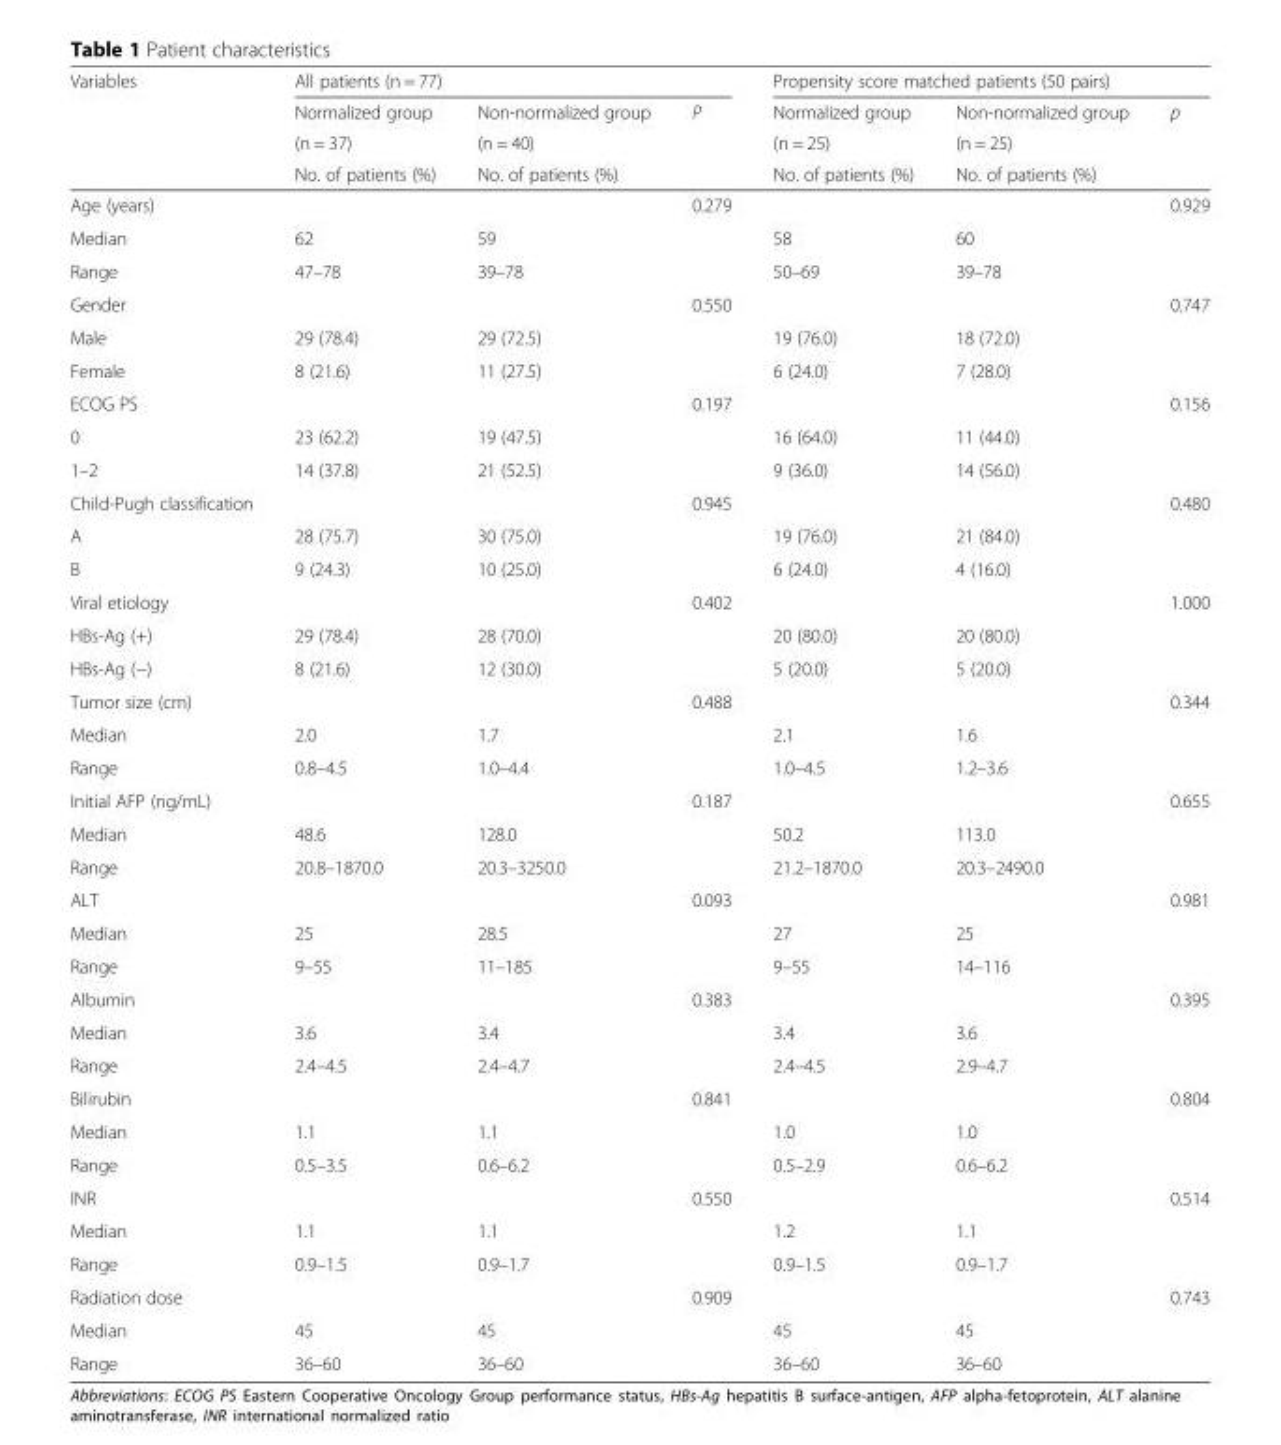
<table><thead><tr><td rowspan="4">Variables</td><td colspan="3">All patients (n = 77)</td><td colspan="3">Propensity score matched patients (50 pairs)</td></tr><tr><td rowspan="3">Normalized group (n = 37) No. of patients (%)</td><td rowspan="3">Non-normalized group (n = 40) No. of patients (%)</td><td rowspan="3">P</td><td rowspan="3">Normalized group (n = 25) No. of patients (%)</td><td rowspan="3">Non-normalized group (n = 25) No. of patients (%)</td><td rowspan="3">p</td></tr><tr></tr><tr></tr></thead><tbody><tr><td>Age (years)</td><td></td><td></td><td>0.279</td><td></td><td></td><td>0.929</td></tr><tr><td>Median</td><td>62</td><td>59</td><td></td><td>58</td><td>60</td><td></td></tr><tr><td>Range</td><td>47–78</td><td>39–78</td><td></td><td>50–69</td><td>39–78</td><td></td></tr><tr><td>Gender</td><td></td><td></td><td>0.550</td><td></td><td></td><td>0.747</td></tr><tr><td>Male</td><td>29 (78.4)</td><td>29 (72.5)</td><td></td><td>19 (76.0)</td><td>18 (72.0)</td><td></td></tr><tr><td>Female</td><td>8 (21.6)</td><td>11 (27.5)</td><td></td><td>6 (24.0)</td><td>7 (28.0)</td><td></td></tr><tr><td>ECOG PS</td><td></td><td></td><td>0.197</td><td></td><td></td><td>0.156</td></tr><tr><td>0</td><td>23 (62.2)</td><td>19 (47.5)</td><td></td><td>16 (64.0)</td><td>11 (44.0)</td><td></td></tr><tr><td>1–2</td><td>14 (37.8)</td><td>21 (52.5)</td><td></td><td>9 (36.0)</td><td>14 (56.0)</td><td></td></tr><tr><td>Child-Pugh classification</td><td></td><td></td><td>0.945</td><td></td><td></td><td>0.480</td></tr><tr><td>A</td><td>28 (75.7)</td><td>30 (75.0)</td><td></td><td>19 (76.0)</td><td>21 (84.0)</td><td></td></tr><tr><td>B</td><td>9 (24.3)</td><td>10 (25.0)</td><td></td><td>6 (24.0)</td><td>4 (16.0)</td><td></td></tr><tr><td>Viral etiology</td><td></td><td></td><td>0.402</td><td></td><td></td><td>1.000</td></tr><tr><td>HBs-Ag (+)</td><td>29 (78.4)</td><td>28 (70.0)</td><td></td><td>20 (80.0)</td><td>20 (80.0)</td><td></td></tr><tr><td>HBs-Ag (−)</td><td>8 (21.6)</td><td>12 (30.0)</td><td></td><td>5 (20.0)</td><td>5 (20.0)</td><td></td></tr><tr><td>Tumor size (cm)</td><td></td><td></td><td>0.488</td><td></td><td></td><td>0.344</td></tr><tr><td>Median</td><td>2.0</td><td>1.7</td><td></td><td>2.1</td><td>1.6</td><td></td></tr><tr><td>Range</td><td>0.8–4.5</td><td>1.0–4.4</td><td></td><td>1.0–4.5</td><td>1.2–3.6</td><td></td></tr><tr><td>Initial AFP (ng/mL)</td><td></td><td></td><td>0.187</td><td></td><td></td><td>0.655</td></tr><tr><td>Median</td><td>48.6</td><td>128.0</td><td></td><td>50.2</td><td>113.0</td><td></td></tr><tr><td>Range</td><td>20.8–1870.0</td><td>20.3–3250.0</td><td></td><td>21.2–1870.0</td><td>20.3–2490.0</td><td></td></tr><tr><td>ALT</td><td></td><td></td><td>0.093</td><td></td><td></td><td>0.981</td></tr><tr><td>Median</td><td>25</td><td>28.5</td><td></td><td>27</td><td>25</td><td></td></tr><tr><td>Range</td><td>9–55</td><td>11–185</td><td></td><td>9–55</td><td>14–116</td><td></td></tr><tr><td>Albumin</td><td></td><td></td><td>0.383</td><td></td><td></td><td>0.395</td></tr><tr><td>Median</td><td>3.6</td><td>3.4</td><td></td><td>3.4</td><td>3.6</td><td></td></tr><tr><td>Range</td><td>2.4–4.5</td><td>2.4–4.7</td><td></td><td>2.4–4.5</td><td>2.9–4.7</td><td></td></tr><tr><td>Bilirubin</td><td></td><td></td><td>0.841</td><td></td><td></td><td>0.804</td></tr><tr><td>Median</td><td>1.1</td><td>1.1</td><td></td><td>1.0</td><td>1.0</td><td></td></tr><tr><td>Range</td><td>0.5–3.5</td><td>0.6–6.2</td><td></td><td>0.5–2.9</td><td>0.6–6.2</td><td></td></tr><tr><td>INR</td><td></td><td></td><td>0.550</td><td></td><td></td><td>0.514</td></tr><tr><td>Median</td><td>1.1</td><td>1.1</td><td></td><td>1.2</td><td>1.1</td><td></td></tr><tr><td>Range</td><td>0.9–1.5</td><td>0.9–1.7</td><td></td><td>0.9–1.5</td><td>0.9–1.7</td><td></td></tr><tr><td>Radiation dose</td><td></td><td></td><td>0.909</td><td></td><td></td><td>0.743</td></tr><tr><td>Median</td><td>45</td><td>45</td><td></td><td>45</td><td>45</td><td></td></tr><tr><td>Range</td><td>36–60</td><td>36–60</td><td></td><td>36–60</td><td>36–60</td><td></td></tr></tbody></table>